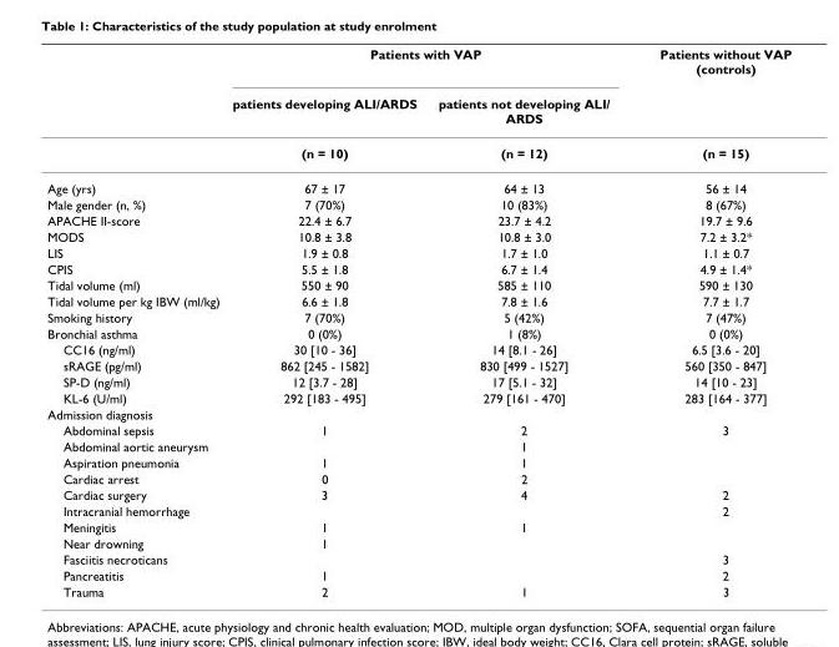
<table><thead><tr><td rowspan="2"></td><td colspan="2">Patients with VAP</td><td rowspan="2">Patients without VAP (controls)</td></tr><tr><td>patients developing ALI/ARDS</td><td>patients not developing ALI/ ARDS</td></tr></thead><tbody><tr><td></td><td>(n = 10)</td><td>(n = 12)</td><td>(n = 15)</td></tr><tr><td>Age (yrs)</td><td>67 ± 17</td><td>64 ± 13</td><td>56 ± 14</td></tr><tr><td>Male gender (n, %)</td><td>7 (70%)</td><td>10 (83%)</td><td>8 (67%)</td></tr><tr><td>APACHE II-score</td><td>22.4 ± 6.7</td><td>23.7 ± 4.2</td><td>19.7 ± 9.6</td></tr><tr><td>MODS</td><td>10.8 ± 3.8</td><td>10.8 ± 3.0</td><td>7.2 ± 3.2*</td></tr><tr><td>LIS</td><td>1.9 ± 0.8</td><td>1.7 ± 1.0</td><td>1.1 ± 0.7</td></tr><tr><td>CPIS</td><td>5.5 ± 1.8</td><td>6.7 ± 1.4</td><td>4.9 ± 1.4*</td></tr><tr><td>Tidal volume (ml)</td><td>550 ± 90</td><td>585 ± 110</td><td>590 ± 130</td></tr><tr><td>Tidal volume per kg IBW (ml/kg)</td><td>6.6 ± 1.8</td><td>7.8 ± 1.6</td><td>7.7 ± 1.7</td></tr><tr><td>Smoking history</td><td>7 (70%)</td><td>5 (42%)</td><td>7 (47%)</td></tr><tr><td>Bronchial asthma</td><td>0 (0%)</td><td>1 (8%)</td><td>0 (0%)</td></tr><tr><td>CC16 (ng/ml)</td><td>30 [10 - 36]</td><td>14 [8.1 - 26]</td><td>6.5 [3.6 - 20]</td></tr><tr><td>sRAGE (pg/ml)</td><td>862 [245 - 1582]</td><td>830 [499 - 1527]</td><td>560 [350 - 847]</td></tr><tr><td>SP-D (ng/ml)</td><td>12 [3.7 - 28]</td><td>17 [5.1 - 32]</td><td>14 [10 - 23]</td></tr><tr><td>KL-6 (U/ml)</td><td>292 [183 - 495]</td><td>279 [161 - 470]</td><td>283 [164 - 377]</td></tr><tr><td colspan="4">Admission diagnosis</td></tr><tr><td>Abdominal sepsis</td><td>1</td><td>2</td><td>3</td></tr><tr><td>Abdominal aortic aneurysm</td><td></td><td>1</td><td></td></tr><tr><td>Aspiration pneumonia</td><td>1</td><td>1</td><td></td></tr><tr><td>Cardiac arrest</td><td>0</td><td>2</td><td></td></tr><tr><td>Cardiac surgery</td><td>3</td><td>4</td><td>2</td></tr><tr><td>Intracranial hemorrhage</td><td></td><td></td><td>2</td></tr><tr><td>Meningitis</td><td>1</td><td>1</td><td></td></tr><tr><td>Near drowning</td><td>1</td><td></td><td></td></tr><tr><td>Fasciitis necroticans</td><td></td><td></td><td>3</td></tr><tr><td>Pancreatitis</td><td>1</td><td></td><td>2</td></tr><tr><td>Trauma</td><td>2</td><td>1</td><td>3</td></tr></tbody></table>